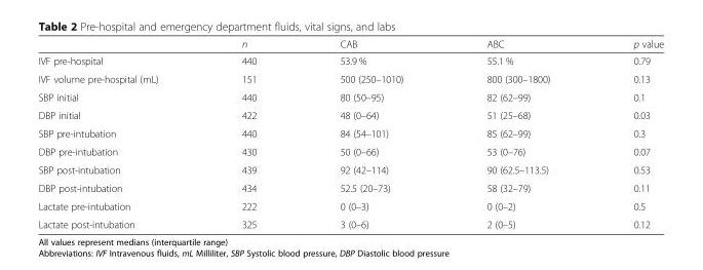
<table><thead><tr><td></td><td>n</td><td>CAB</td><td>ABC</td><td>p value</td></tr></thead><tbody><tr><td>IVF pre-hospital</td><td>440</td><td>53.9 %</td><td>55.1 %</td><td>0.79</td></tr><tr><td>IVF volume pre-hospital (mL)</td><td>151</td><td>500 (250–1010)</td><td>800 (300–1800)</td><td>0.13</td></tr><tr><td>SBP initial</td><td>440</td><td>80 (50–95)</td><td>82 (62–99)</td><td>0.1</td></tr><tr><td>DBP initial</td><td>422</td><td>48 (0–64)</td><td>51 (25–68)</td><td>0.03</td></tr><tr><td>SBP pre-intubation</td><td>440</td><td>84 (54–101)</td><td>85 (62–99)</td><td>0.3</td></tr><tr><td>DBP pre-intubation</td><td>430</td><td>50 (0–66)</td><td>53 (0–76)</td><td>0.07</td></tr><tr><td>SBP post-intubation</td><td>439</td><td>92 (42–114)</td><td>90 (62.5–113.5)</td><td>0.53</td></tr><tr><td>DBP post-intubation</td><td>434</td><td>52.5 (20–73)</td><td>58 (32–79)</td><td>0.11</td></tr><tr><td>Lactate pre-intubation</td><td>222</td><td>0 (0–3)</td><td>0 (0–2)</td><td>0.5</td></tr><tr><td>Lactate post-intubation</td><td>325</td><td>3 (0–6)</td><td>2 (0–5)</td><td>0.12</td></tr></tbody></table>